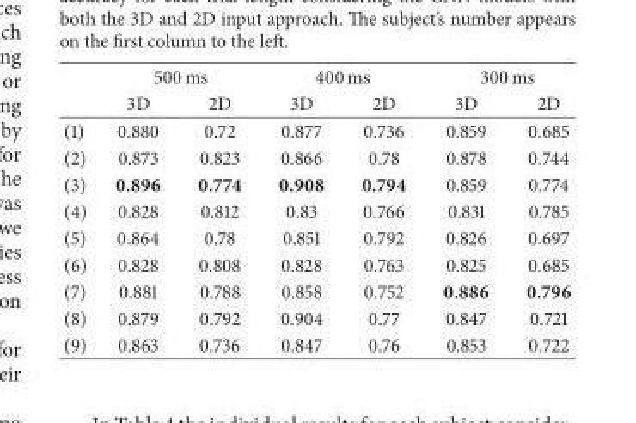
<table><thead><tr><td rowspan="2"></td><td colspan="2">500 ms</td><td colspan="2">400 ms</td><td colspan="2">300 ms</td></tr><tr><td>3D</td><td>2D</td><td>3D</td><td>2D</td><td>3D</td><td>2D</td></tr></thead><tbody><tr><td>(1)</td><td>0.880</td><td>0.72</td><td>0.877</td><td>0.736</td><td>0.859</td><td>0.685</td></tr><tr><td>(2)</td><td>0.873</td><td>0.823</td><td>0.866</td><td>0.78</td><td>0.878</td><td>0.744</td></tr><tr><td>(3)</td><td>0.896</td><td>0.774</td><td>0.908</td><td>0.794</td><td>0.859</td><td>0.774</td></tr><tr><td>(4)</td><td>0.828</td><td>0.812</td><td>0.83</td><td>0.766</td><td>0.831</td><td>0.785</td></tr><tr><td>(5)</td><td>0.864</td><td>0.78</td><td>0.851</td><td>0.792</td><td>0.826</td><td>0.697</td></tr><tr><td>(6)</td><td>0.828</td><td>0.808</td><td>0.828</td><td>0.763</td><td>0.825</td><td>0.685</td></tr><tr><td>(7)</td><td>0.881</td><td>0.788</td><td>0.858</td><td>0.752</td><td>0.886</td><td>0.796</td></tr><tr><td>(8)</td><td>0.879</td><td>0.792</td><td>0.904</td><td>0.77</td><td>0.847</td><td>0.721</td></tr><tr><td>(9)</td><td>0.863</td><td>0.736</td><td>0.847</td><td>0.76</td><td>0.853</td><td>0.722</td></tr></tbody></table>